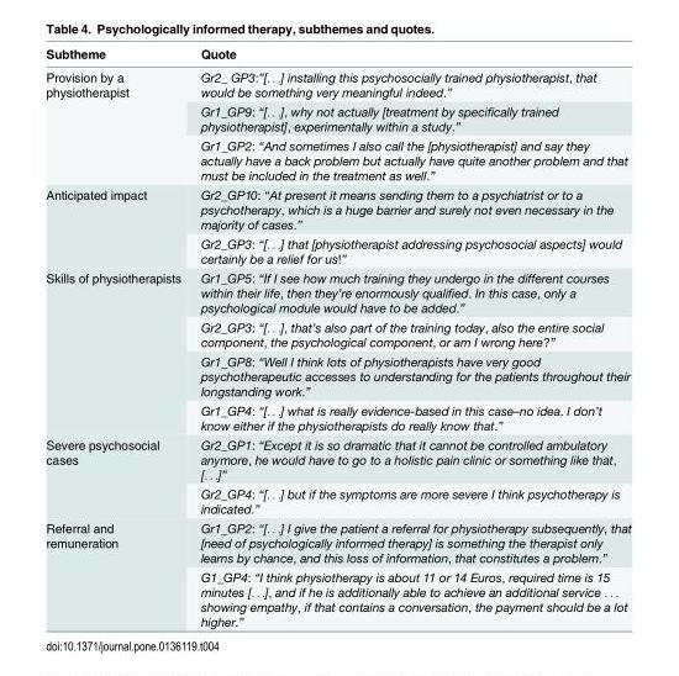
<table><thead><tr><td>Subtheme</td><td>Quote</td></tr></thead><tbody><tr><td rowspan="3">Provision by a physiotherapist</td><td>Gr2_ GP3:”[. . .] installing this psychosocially trained physiotherapist, that would be something very meaningful indeed.”</td></tr><tr><td>Gr1_GP9: “[. . .], why not actually [treatment by specifically trained physiotherapist], experimentally within a study.”</td></tr><tr><td>Gr1_GP2: “And sometimes I also call the [physiotherapist] and say they actually have a back problem but actually have quite another problem and that must be included in the treatment as well.”</td></tr><tr><td rowspan="2">Anticipated impact</td><td>Gr2_GP10: “At present it means sending them to a psychiatrist or to a psychotherapy, which is a huge barrier and surely not even necessary in the majority of cases.”</td></tr><tr><td>Gr2_GP3: “[. . .] that [physiotherapist addressing psychosocial aspects] would certainly be a relief for us!”</td></tr><tr><td rowspan="4">Skills of physiotherapists</td><td>Gr1_GP5: “If I see how much training they undergo in the different courses within their life, then they’re enormously qualified. In this case, only a psychological module would have to be added.”</td></tr><tr><td>Gr2_GP3: “[. . .], that’s also part of the training today, also the entire social component, the psychological component, or am I wrong here?”</td></tr><tr><td>Gr1_GP8: “Well I think lots of physiotherapists have very good psychotherapeutic accesses to understanding for the patients throughout their longstanding work.”</td></tr><tr><td>Gr1_GP4: “[. . .] what is really evidence-based in this case–no idea. I don’t know either if the physiotherapists do really know that.”</td></tr><tr><td rowspan="2">Severe psychosocial cases</td><td>Gr2_GP1: “Except it is so dramatic that it cannot be controlled ambulatory anymore, he would have to go to a holistic pain clinic or something like that, [. . .]”</td></tr><tr><td>Gr2_GP4: “[. . .] but if the symptoms are more severe I think psychotherapy is indicated.”</td></tr><tr><td rowspan="2">Referral and remuneration</td><td>Gr1_GP2: “[. . .] I give the patient a referral for physiotherapy subsequently, that [need of psychologically informed therapy] is something the therapist only learns by chance, and this loss of information, that constitutes a problem.”</td></tr><tr><td>G1_GP4: “I think physiotherapy is about 11 or 14 Euros, required time is 15 minutes [. . .], and if he is additionally able to achieve an additional service . . . showing empathy, if that contains a conversation, the payment should be a lot higher.”</td></tr></tbody></table>